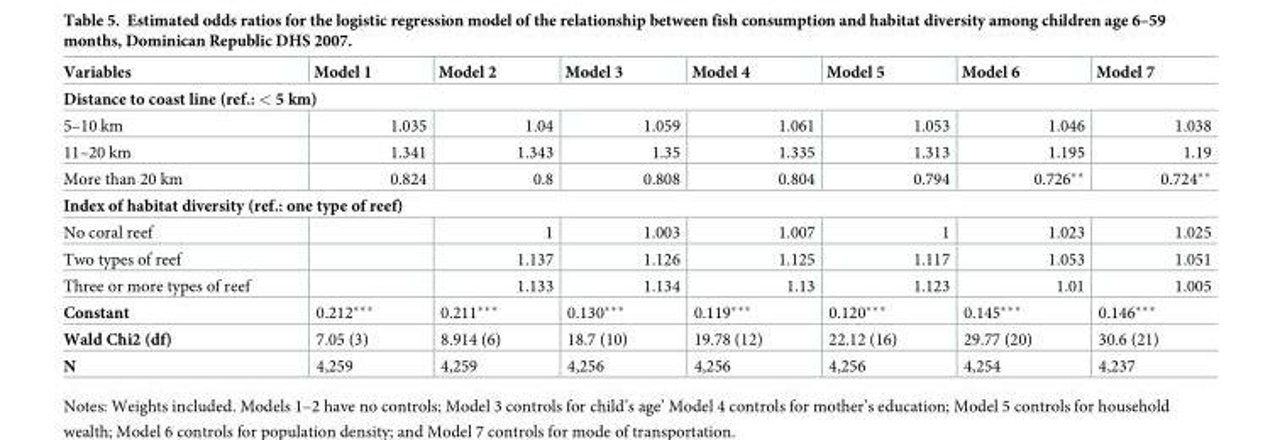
<table><thead><tr><td>Variables</td><td>Model 1</td><td>Model 2</td><td>Model 3</td><td>Model 4</td><td>Model 5</td><td>Model 6</td><td>Model 7</td></tr></thead><tbody><tr><td colspan="8">Distance to coast line (ref.: &lt; 5 km)</td></tr><tr><td>5–10 km</td><td>1.035</td><td>1.04</td><td>1.059</td><td>1.061</td><td>1.053</td><td>1.046</td><td>1.038</td></tr><tr><td>11–20 km</td><td>1.341</td><td>1.343</td><td>1.35</td><td>1.335</td><td>1.313</td><td>1.195</td><td>1.19</td></tr><tr><td>More than 20 km</td><td>0.824</td><td>0.8</td><td>0.808</td><td>0.804</td><td>0.794</td><td>0.726**</td><td>0.724**</td></tr><tr><td colspan="8">Index of habitat diversity (ref.: one type of reef)</td></tr><tr><td>No coral reef</td><td></td><td>1</td><td>1.003</td><td>1.007</td><td>1</td><td>1.023</td><td>1.025</td></tr><tr><td>Two types of reef</td><td></td><td>1.137</td><td>1.126</td><td>1.125</td><td>1.117</td><td>1.053</td><td>1.051</td></tr><tr><td>Three or more types of reef</td><td></td><td>1.133</td><td>1.134</td><td>1.13</td><td>1.123</td><td>1.01</td><td>1.005</td></tr><tr><td>Constant</td><td>0.212***</td><td>0.211***</td><td>0.130***</td><td>0.119***</td><td>0.120***</td><td>0.145***</td><td>0.146***</td></tr><tr><td>Wald Chi2 (df)</td><td>7.05 (3)</td><td>8.914 (6)</td><td>18.7 (10)</td><td>19.78 (12)</td><td>22.12 (16)</td><td>29.77 (20)</td><td>30.6 (21)</td></tr><tr><td>N</td><td>4,259</td><td>4,259</td><td>4,256</td><td>4,256</td><td>4,256</td><td>4,254</td><td>4,237</td></tr></tbody></table>